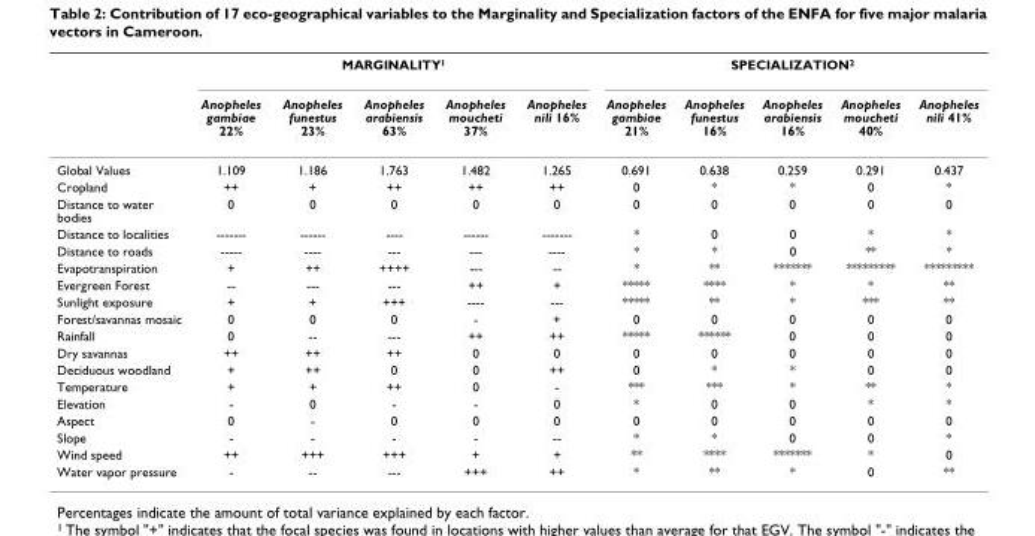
<table><thead><tr><td rowspan="2"></td><td colspan="5">MARGINALITY<sup>1</sup></td><td colspan="5">SPECIALIZATION<sup>2</sup></td></tr><tr><td>Anopheles gambiae 22%</td><td>Anopheles funestus 23%</td><td>Anopheles arabiensis 63%</td><td>Anopheles moucheti 37%</td><td>Anopheles nili 16%</td><td>Anopheles gambiae 21%</td><td>Anopheles funestus 16%</td><td>Anopheles arabiensis 16%</td><td>Anopheles moucheti 40%</td><td>Anopheles nili 41%</td></tr></thead><tbody><tr><td>Global Values</td><td>1.109</td><td>1.186</td><td>1.763</td><td>1.482</td><td>1.265</td><td>0.691</td><td>0.638</td><td>0.259</td><td>0.291</td><td>0.437</td></tr><tr><td>Cropland</td><td>++</td><td>+</td><td>++</td><td>++</td><td>++</td><td>0</td><td>*</td><td>*</td><td>0</td><td>*</td></tr><tr><td>Distance to water bodies</td><td>0</td><td>0</td><td>0</td><td>0</td><td>0</td><td>0</td><td>0</td><td>0</td><td>0</td><td>0</td></tr><tr><td>Distance to localities</td><td>-------</td><td>------</td><td>----</td><td>------</td><td>-------</td><td>*</td><td>0</td><td>0</td><td>*</td><td>*</td></tr><tr><td>Distance to roads</td><td>-----</td><td>----</td><td>---</td><td>---</td><td>----</td><td>*</td><td>*</td><td>0</td><td>**</td><td>*</td></tr><tr><td>Evapotranspiration</td><td>+</td><td>++</td><td>++++</td><td>---</td><td>--</td><td>*</td><td>**</td><td>*******</td><td>*********</td><td>*********</td></tr><tr><td>Evergreen Forest</td><td>--</td><td>---</td><td>---</td><td>++</td><td>+</td><td>*****</td><td>****</td><td>*</td><td>*</td><td>**</td></tr><tr><td>Sunlight exposure</td><td>+</td><td>+</td><td>+++</td><td>----</td><td>---</td><td>*****</td><td>**</td><td>*</td><td>***</td><td>**</td></tr><tr><td>Forest/savannas mosaic</td><td>0</td><td>0</td><td>0</td><td>-</td><td>+</td><td>0</td><td>0</td><td>0</td><td>0</td><td>0</td></tr><tr><td>Rainfall</td><td>0</td><td>--</td><td>---</td><td>++</td><td>++</td><td>*****</td><td>******</td><td>0</td><td>0</td><td>0</td></tr><tr><td>Dry savannas</td><td>++</td><td>++</td><td>++</td><td>0</td><td>0</td><td>0</td><td>0</td><td>0</td><td>0</td><td>0</td></tr><tr><td>Deciduous woodland</td><td>+</td><td>++</td><td>0</td><td>0</td><td>++</td><td>0</td><td>*</td><td>*</td><td>0</td><td>0</td></tr><tr><td>Temperature</td><td>+</td><td>+</td><td>++</td><td>0</td><td>-</td><td>***</td><td>***</td><td>*</td><td>**</td><td>*</td></tr><tr><td>Elevation</td><td>-</td><td>0</td><td>-</td><td>-</td><td>0</td><td>*</td><td>0</td><td>0</td><td>*</td><td>*</td></tr><tr><td>Aspect</td><td>0</td><td>-</td><td>0</td><td>0</td><td>0</td><td>0</td><td>0</td><td>0</td><td>0</td><td>0</td></tr><tr><td>Slope</td><td>-</td><td>-</td><td>-</td><td>-</td><td>--</td><td>*</td><td>*</td><td>0</td><td>0</td><td>*</td></tr><tr><td>Wind speed</td><td>++</td><td>+++</td><td>+++</td><td>+</td><td>+</td><td>**</td><td>****</td><td>*******</td><td>*</td><td>0</td></tr><tr><td>Water vapor pressure</td><td>-</td><td>--</td><td>---</td><td>+++</td><td>++</td><td>*</td><td>**</td><td>*</td><td>0</td><td>**</td></tr></tbody></table>